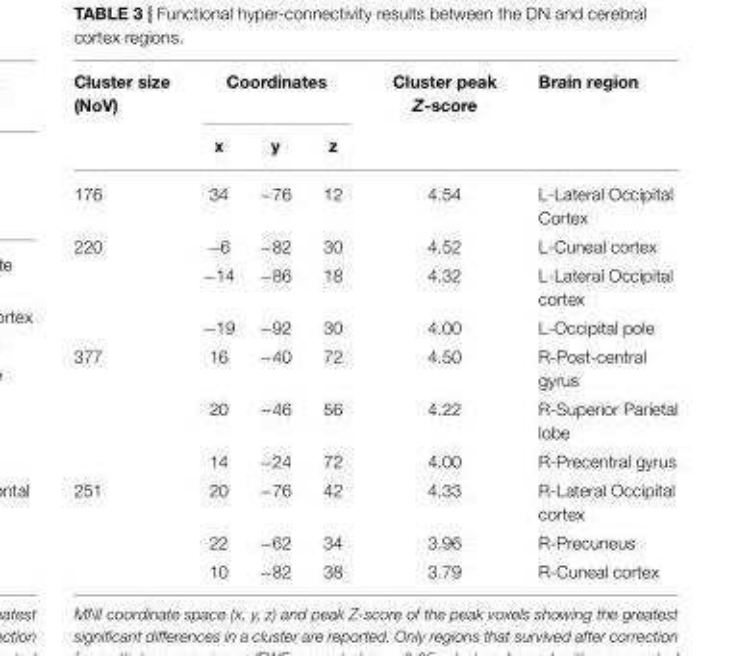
<table><thead><tr><td rowspan="2">Cluster size (NoV)</td><td colspan="3">Coordinates</td><td rowspan="2">Cluster peak Z-score</td><td rowspan="2">Brain region</td></tr><tr><td>x</td><td>y</td><td>z</td></tr></thead><tbody><tr><td>176</td><td>34</td><td>−76</td><td>12</td><td>4.54</td><td>L-Lateral Occipital Cortex</td></tr><tr><td rowspan="3">220</td><td>−6</td><td>−82</td><td>30</td><td>4.52</td><td>L-Cuneal cortex</td></tr><tr><td>−14</td><td>−86</td><td>18</td><td>4.32</td><td>L-Lateral Occipital cortex</td></tr><tr><td>−19</td><td>−92</td><td>30</td><td>4.00</td><td>L-Occipital pole</td></tr><tr><td rowspan="3">377</td><td>16</td><td>−40</td><td>72</td><td>4.50</td><td>R-Post-central gyrus</td></tr><tr><td>20</td><td>−46</td><td>56</td><td>4.22</td><td>R-Superior Parietal lobe</td></tr><tr><td>14</td><td>−24</td><td>72</td><td>4.00</td><td>R-Precentral gyrus</td></tr><tr><td rowspan="3">251</td><td>20</td><td>−76</td><td>42</td><td>4.33</td><td>R-Lateral Occipital cortex</td></tr><tr><td>22</td><td>−62</td><td>34</td><td>3.96</td><td>R-Precuneus</td></tr><tr><td>10</td><td>−82</td><td>38</td><td>3.79</td><td>R-Cuneal cortex</td></tr></tbody></table>